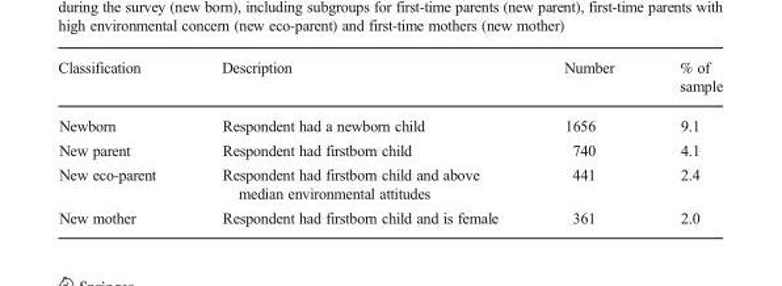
<table><thead><tr><td>Classification</td><td>Description</td><td>Number</td><td>% of sample</td></tr></thead><tbody><tr><td>Newborn</td><td>Respondent had a newborn child</td><td>1656</td><td>9.1</td></tr><tr><td>New parent</td><td>Respondent had firstborn child</td><td>740</td><td>4.1</td></tr><tr><td>New eco-parent</td><td>Respondent had firstborn child and above median environmental attitudes</td><td>441</td><td>2.4</td></tr><tr><td>New mother</td><td>Respondent had firstborn child and is female</td><td>361</td><td>2.0</td></tr></tbody></table>